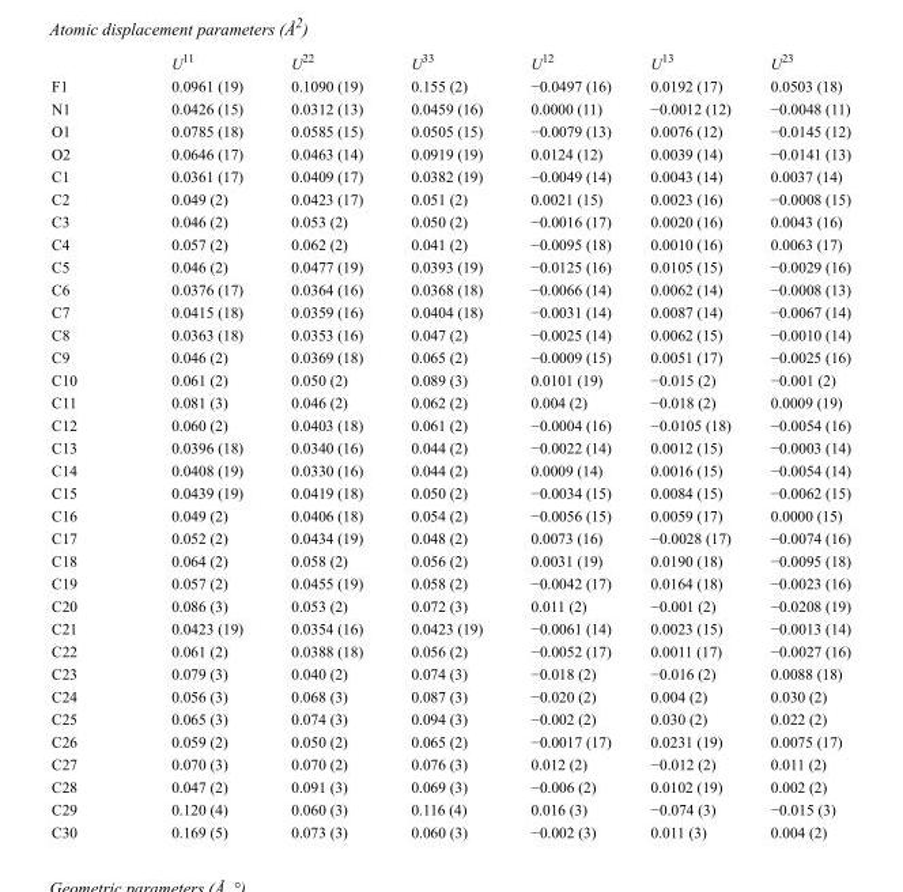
<table><thead><tr><td></td><td>U<sup>11</sup></td><td>U<sup>22</sup></td><td>U<sup>33</sup></td><td>U<sup>12</sup></td><td>U<sup>13</sup></td><td>U<sup>23</sup></td></tr></thead><tbody><tr><td>F1</td><td>0.0961 (19)</td><td>0.1090 (19)</td><td>0.155 (2)</td><td>−0.0497 (16)</td><td>0.0192 (17)</td><td>0.0503 (18)</td></tr><tr><td>N1</td><td>0.0426 (15)</td><td>0.0312 (13)</td><td>0.0459 (16)</td><td>0.0000 (11)</td><td>−0.0012 (12)</td><td>−0.0048 (11)</td></tr><tr><td>O1</td><td>0.0785 (18)</td><td>0.0585 (15)</td><td>0.0505 (15)</td><td>−0.0079 (13)</td><td>0.0076 (12)</td><td>−0.0145 (12)</td></tr><tr><td>O2</td><td>0.0646 (17)</td><td>0.0463 (14)</td><td>0.0919 (19)</td><td>0.0124 (12)</td><td>0.0039 (14)</td><td>−0.0141 (13)</td></tr><tr><td>C1</td><td>0.0361 (17)</td><td>0.0409 (17)</td><td>0.0382 (19)</td><td>−0.0049 (14)</td><td>0.0043 (14)</td><td>0.0037 (14)</td></tr><tr><td>C2</td><td>0.049 (2)</td><td>0.0423 (17)</td><td>0.051 (2)</td><td>0.0021 (15)</td><td>0.0023 (16)</td><td>−0.0008 (15)</td></tr><tr><td>C3</td><td>0.046 (2)</td><td>0.053 (2)</td><td>0.050 (2)</td><td>−0.0016 (17)</td><td>0.0020 (16)</td><td>0.0043 (16)</td></tr><tr><td>C4</td><td>0.057 (2)</td><td>0.062 (2)</td><td>0.041 (2)</td><td>−0.0095 (18)</td><td>0.0010 (16)</td><td>0.0063 (17)</td></tr><tr><td>C5</td><td>0.046 (2)</td><td>0.0477 (19)</td><td>0.0393 (19)</td><td>−0.0125 (16)</td><td>0.0105 (15)</td><td>−0.0029 (16)</td></tr><tr><td>C6</td><td>0.0376 (17)</td><td>0.0364 (16)</td><td>0.0368 (18)</td><td>−0.0066 (14)</td><td>0.0062 (14)</td><td>−0.0008 (13)</td></tr><tr><td>C7</td><td>0.0415 (18)</td><td>0.0359 (16)</td><td>0.0404 (18)</td><td>−0.0031 (14)</td><td>0.0087 (14)</td><td>−0.0067 (14)</td></tr><tr><td>C8</td><td>0.0363 (18)</td><td>0.0353 (16)</td><td>0.047 (2)</td><td>−0.0025 (14)</td><td>0.0062 (15)</td><td>−0.0010 (14)</td></tr><tr><td>C9</td><td>0.046 (2)</td><td>0.0369 (18)</td><td>0.065 (2)</td><td>−0.0009 (15)</td><td>0.0051 (17)</td><td>−0.0025 (16)</td></tr><tr><td>C10</td><td>0.061 (2)</td><td>0.050 (2)</td><td>0.089 (3)</td><td>0.0101 (19)</td><td>−0.015 (2)</td><td>−0.001 (2)</td></tr><tr><td>C11</td><td>0.081 (3)</td><td>0.046 (2)</td><td>0.062 (2)</td><td>0.004 (2)</td><td>−0.018 (2)</td><td>0.0009 (19)</td></tr><tr><td>C12</td><td>0.060 (2)</td><td>0.0403 (18)</td><td>0.061 (2)</td><td>−0.0004 (16)</td><td>−0.0105 (18)</td><td>−0.0054 (16)</td></tr><tr><td>C13</td><td>0.0396 (18)</td><td>0.0340 (16)</td><td>0.044 (2)</td><td>−0.0022 (14)</td><td>0.0012 (15)</td><td>−0.0003 (14)</td></tr><tr><td>C14</td><td>0.0408 (19)</td><td>0.0330 (16)</td><td>0.044 (2)</td><td>0.0009 (14)</td><td>0.0016 (15)</td><td>−0.0054 (14)</td></tr><tr><td>C15</td><td>0.0439 (19)</td><td>0.0419 (18)</td><td>0.050 (2)</td><td>−0.0034 (15)</td><td>0.0084 (15)</td><td>−0.0062 (15)</td></tr><tr><td>C16</td><td>0.049 (2)</td><td>0.0406 (18)</td><td>0.054 (2)</td><td>−0.0056 (15)</td><td>0.0059 (17)</td><td>0.0000 (15)</td></tr><tr><td>C17</td><td>0.052 (2)</td><td>0.0434 (19)</td><td>0.048 (2)</td><td>0.0073 (16)</td><td>−0.0028 (17)</td><td>−0.0074 (16)</td></tr><tr><td>C18</td><td>0.064 (2)</td><td>0.058 (2)</td><td>0.056 (2)</td><td>0.0031 (19)</td><td>0.0190 (18)</td><td>−0.0095 (18)</td></tr><tr><td>C19</td><td>0.057 (2)</td><td>0.0455 (19)</td><td>0.058 (2)</td><td>−0.0042 (17)</td><td>0.0164 (18)</td><td>−0.0023 (16)</td></tr><tr><td>C20</td><td>0.086 (3)</td><td>0.053 (2)</td><td>0.072 (3)</td><td>0.011 (2)</td><td>−0.001 (2)</td><td>−0.0208 (19)</td></tr><tr><td>C21</td><td>0.0423 (19)</td><td>0.0354 (16)</td><td>0.0423 (19)</td><td>−0.0061 (14)</td><td>0.0023 (15)</td><td>−0.0013 (14)</td></tr><tr><td>C22</td><td>0.061 (2)</td><td>0.0388 (18)</td><td>0.056 (2)</td><td>−0.0052 (17)</td><td>0.0011 (17)</td><td>−0.0027 (16)</td></tr><tr><td>C23</td><td>0.079 (3)</td><td>0.040 (2)</td><td>0.074 (3)</td><td>−0.018 (2)</td><td>−0.016 (2)</td><td>0.0088 (18)</td></tr><tr><td>C24</td><td>0.056 (3)</td><td>0.068 (3)</td><td>0.087 (3)</td><td>−0.020 (2)</td><td>0.004 (2)</td><td>0.030 (2)</td></tr><tr><td>C25</td><td>0.065 (3)</td><td>0.074 (3)</td><td>0.094 (3)</td><td>−0.002 (2)</td><td>0.030 (2)</td><td>0.022 (2)</td></tr><tr><td>C26</td><td>0.059 (2)</td><td>0.050 (2)</td><td>0.065 (2)</td><td>−0.0017 (17)</td><td>0.0231 (19)</td><td>0.0075 (17)</td></tr><tr><td>C27</td><td>0.070 (3)</td><td>0.070 (2)</td><td>0.076 (3)</td><td>0.012 (2)</td><td>−0.012 (2)</td><td>0.011 (2)</td></tr><tr><td>C28</td><td>0.047 (2)</td><td>0.091 (3)</td><td>0.069 (3)</td><td>−0.006 (2)</td><td>0.0102 (19)</td><td>0.002 (2)</td></tr><tr><td>C29</td><td>0.120 (4)</td><td>0.060 (3)</td><td>0.116 (4)</td><td>0.016 (3)</td><td>−0.074 (3)</td><td>−0.015 (3)</td></tr><tr><td>C30</td><td>0.169 (5)</td><td>0.073 (3)</td><td>0.060 (3)</td><td>−0.002 (3)</td><td>0.011 (3)</td><td>0.004 (2)</td></tr></tbody></table>